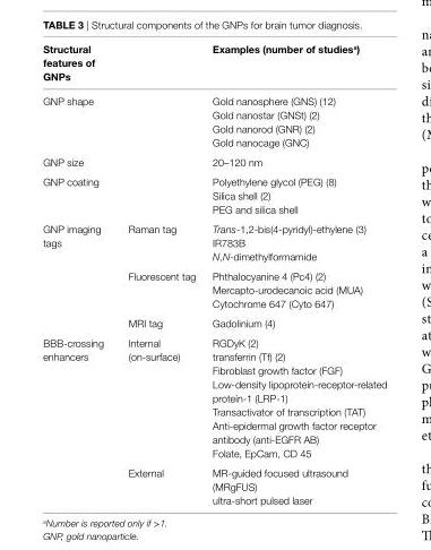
<table><thead><tr><td>Structural features of GNPs</td><td></td><td>examples (number of studies<sup>a</sup>)</td></tr></thead><tbody><tr><td>GNP shape</td><td></td><td>Gold nanosphere (GNS) (12) Gold nanostar (GNSt) (2) Gold nanorod (GNR) (2) Gold nanocage (GNC)</td></tr><tr><td>GNP size</td><td></td><td>20–120 nm</td></tr><tr><td>GNP coating</td><td></td><td>Polyethylene glycol (PEG) (8) Silica shell (2) PEG and silica shell</td></tr><tr><td rowspan="3">GNP imaging tags</td><td>Raman tag</td><td>Trans-1,2-bis(4-pyridyl)-ethylene (3) IR783B N,N-dimethylformamide</td></tr><tr><td>Fluorescent tag</td><td>Phthalocyanine 4 (Pc4) (2) Mercapto-urodecanoic acid (MUA) Cytochrome 647 (Cyto 647)</td></tr><tr><td>MRI tag</td><td>Gadolinium (4)</td></tr><tr><td rowspan="2">BBB-crossing enhancers</td><td>Internal (on-surface)</td><td>RGDyK (2) transferrin (Tf) (2) Fibroblast growth factor (FGF) Low-density lipoprotein-receptor-related protein-1 (LRP-1) Transactivator of transcription (TAT) Anti-epidermal growth factor receptor antibody (anti-EGFR AB) Folate, EpCam, CD 45</td></tr><tr><td>External</td><td>MR-guided focused ultrasound (MRgFUS) ultra-short pulsed laser</td></tr></tbody></table>